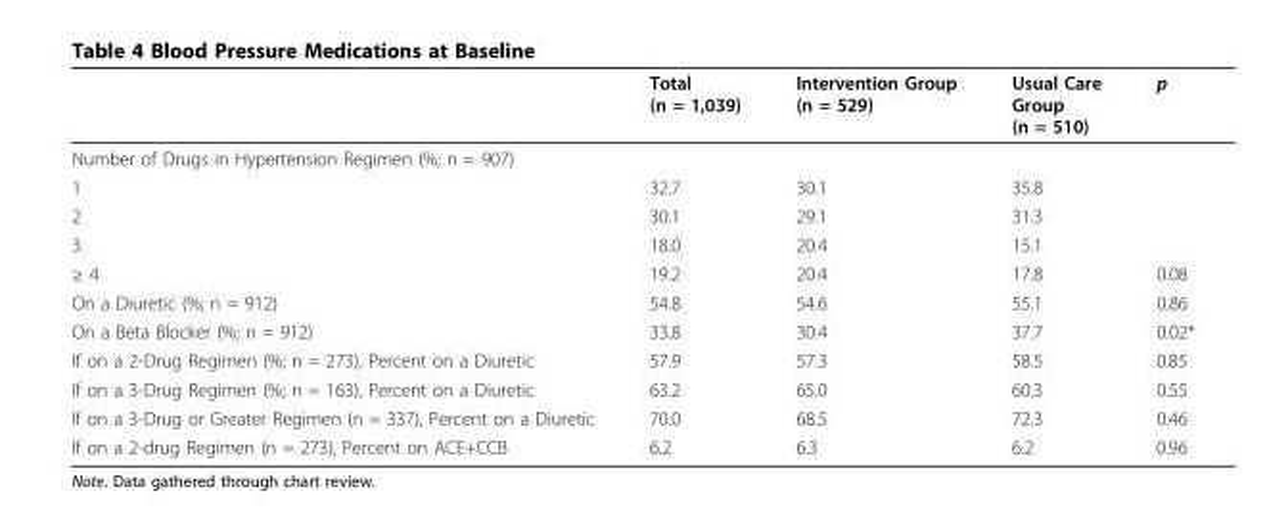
<table><thead><tr><td></td><td>Total (n = 1,039)</td><td>Intervention Group (n = 529)</td><td>Usual Care Group (n = 510)</td><td>p</td></tr></thead><tbody><tr><td colspan="5">Number of Drugs in Hypertension Regimen (%; n = 907)</td></tr><tr><td>1</td><td>32.7</td><td>30.1</td><td>35.8</td><td></td></tr><tr><td>2</td><td>30.1</td><td>29.1</td><td>31.3</td><td></td></tr><tr><td>3</td><td>18.0</td><td>20.4</td><td>15.1</td><td></td></tr><tr><td>≥ 4</td><td>19.2</td><td>20.4</td><td>17.8</td><td>0.08</td></tr><tr><td>On a Diuretic (%; n = 912)</td><td>54.8</td><td>54.6</td><td>55.1</td><td>0.86</td></tr><tr><td>On a Beta Blocker (%; n = 912)</td><td>33.8</td><td>30.4</td><td>37.7</td><td>0.02*</td></tr><tr><td>If on a 2-Drug Regimen (%; n = 273), Percent on a Diuretic</td><td>57.9</td><td>57.3</td><td>58.5</td><td>0.85</td></tr><tr><td>If on a 3-Drug Regimen (%; n = 163), Percent on a Diuretic</td><td>63.2</td><td>65.0</td><td>60.3</td><td>0.55</td></tr><tr><td>If on a 3-Drug or Greater Regimen (n = 337), Percent on a Diuretic</td><td>70.0</td><td>68.5</td><td>72.3</td><td>0.46</td></tr><tr><td>If on a 2-drug Regimen (n = 273), Percent on ACE+CCB</td><td>6.2</td><td>6.3</td><td>6.2</td><td>0.96</td></tr></tbody></table>